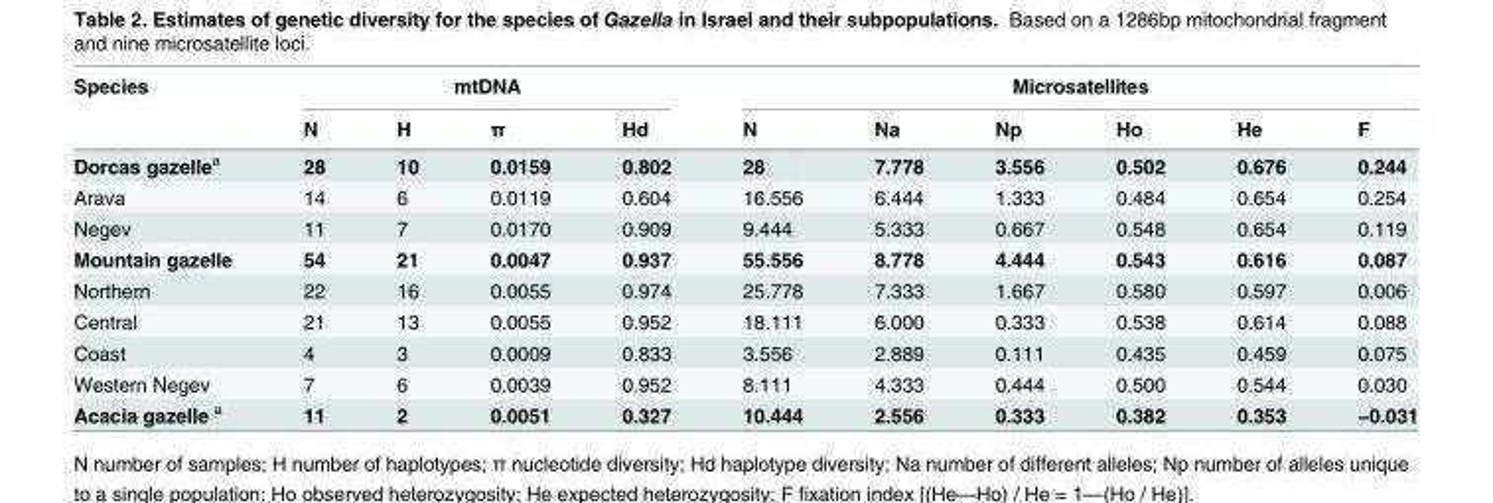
<table><thead><tr><td rowspan="2">Species</td><td colspan="4">mtDNA</td><td colspan="6">Microsatellites</td></tr><tr><td>N</td><td>H</td><td>π</td><td>Hd</td><td>N</td><td>Na</td><td>Np</td><td>Ho</td><td>He</td><td>F</td></tr></thead><tbody><tr><td>Dorcas gazelle<sup>a</sup></td><td>28</td><td>10</td><td>0.0159</td><td>0.802</td><td>28</td><td>7.778</td><td>3.556</td><td>0.502</td><td>0.676</td><td>0.244</td></tr><tr><td>Arava</td><td>14</td><td>6</td><td>0.0119</td><td>0.604</td><td>16.556</td><td>6.444</td><td>1.333</td><td>0.484</td><td>0.654</td><td>0.254</td></tr><tr><td>Negev</td><td>11</td><td>7</td><td>0.0170</td><td>0.909</td><td>9.444</td><td>5.333</td><td>0.667</td><td>0.548</td><td>0.654</td><td>0.119</td></tr><tr><td>Mountain gazelle</td><td>54</td><td>21</td><td>0.0047</td><td>0.937</td><td>55.556</td><td>8.778</td><td>4.444</td><td>0.543</td><td>0.616</td><td>0.087</td></tr><tr><td>Northern</td><td>22</td><td>16</td><td>0.0055</td><td>0.974</td><td>25.778</td><td>7.333</td><td>1.667</td><td>0.580</td><td>0.597</td><td>0.006</td></tr><tr><td>Central</td><td>21</td><td>13</td><td>0.0055</td><td>0.952</td><td>18.111</td><td>6.000</td><td>0.333</td><td>0.538</td><td>0.614</td><td>0.088</td></tr><tr><td>Coast</td><td>4</td><td>3</td><td>0.0009</td><td>0.833</td><td>3.556</td><td>2.889</td><td>0.111</td><td>0.435</td><td>0.459</td><td>0.075</td></tr><tr><td>Western Negev</td><td>7</td><td>6</td><td>0.0039</td><td>0.952</td><td>8.111</td><td>4.333</td><td>0.444</td><td>0.500</td><td>0.544</td><td>0.030</td></tr><tr><td>Acacia gazelle <sup>a</sup></td><td>11</td><td>2</td><td>0.0051</td><td>0.327</td><td>10.444</td><td>2.556</td><td>0.333</td><td>0.382</td><td>0.353</td><td>−0.031</td></tr></tbody></table>